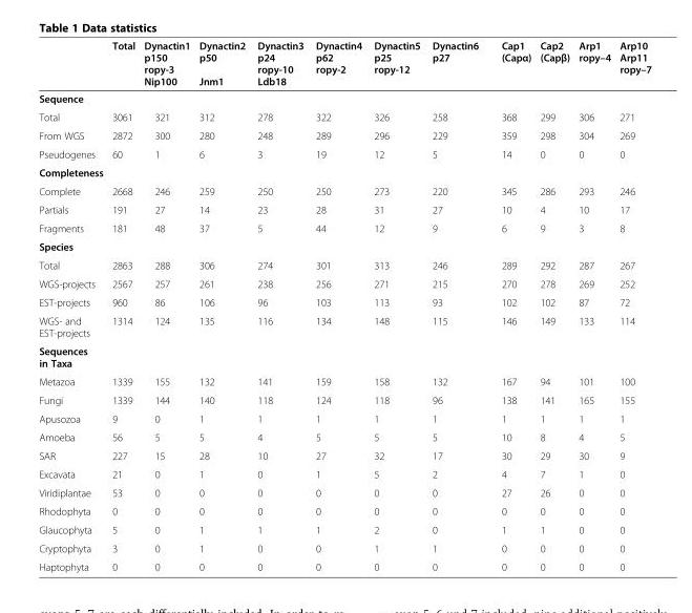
<table><thead><tr><td></td><td>Total</td><td>Dynactin1 p150 ropy-3 Nip100</td><td>Dynactin2 p50 Jnm1</td><td>Dynactin3 p24 ropy-10 Ldb18</td><td>Dynactin4 p62 ropy-2</td><td>Dynactin5 p25 ropy-12</td><td>Dynactin6 p27</td><td>Cap1 (Capα)</td><td>Cap2 (Capβ)</td><td>Arp1 ropy–4</td><td>Arp10 Arp11 ropy–7</td></tr></thead><tbody><tr><td colspan="12">Sequence</td></tr><tr><td>Total</td><td>3061</td><td>321</td><td>312</td><td>278</td><td>322</td><td>326</td><td>258</td><td>368</td><td>299</td><td>306</td><td>271</td></tr><tr><td>From WGS</td><td>2872</td><td>300</td><td>280</td><td>248</td><td>289</td><td>296</td><td>229</td><td>359</td><td>298</td><td>304</td><td>269</td></tr><tr><td>Pseudogenes</td><td>60</td><td>1</td><td>6</td><td>3</td><td>19</td><td>12</td><td>5</td><td>14</td><td>0</td><td>0</td><td>0</td></tr><tr><td colspan="12">Completeness</td></tr><tr><td>Complete</td><td>2668</td><td>246</td><td>259</td><td>250</td><td>250</td><td>273</td><td>220</td><td>345</td><td>286</td><td>293</td><td>246</td></tr><tr><td>Partials</td><td>191</td><td>27</td><td>14</td><td>23</td><td>28</td><td>31</td><td>27</td><td>10</td><td>4</td><td>10</td><td>17</td></tr><tr><td>Fragments</td><td>181</td><td>48</td><td>37</td><td>5</td><td>44</td><td>12</td><td>9</td><td>6</td><td>9</td><td>3</td><td>8</td></tr><tr><td colspan="12">Species</td></tr><tr><td>Total</td><td>2863</td><td>288</td><td>306</td><td>274</td><td>301</td><td>313</td><td>246</td><td>289</td><td>292</td><td>287</td><td>267</td></tr><tr><td>WGS-projects</td><td>2567</td><td>257</td><td>261</td><td>238</td><td>256</td><td>271</td><td>215</td><td>270</td><td>278</td><td>269</td><td>252</td></tr><tr><td>EST-projects</td><td>960</td><td>86</td><td>106</td><td>96</td><td>103</td><td>113</td><td>93</td><td>102</td><td>102</td><td>87</td><td>72</td></tr><tr><td>WGS- and EST-projects</td><td>1314</td><td>124</td><td>135</td><td>116</td><td>134</td><td>148</td><td>115</td><td>146</td><td>149</td><td>133</td><td>114</td></tr><tr><td colspan="12">Sequences in Taxa</td></tr><tr><td>Metazoa</td><td>1339</td><td>155</td><td>132</td><td>141</td><td>159</td><td>158</td><td>132</td><td>167</td><td>94</td><td>101</td><td>100</td></tr><tr><td>Fungi</td><td>1339</td><td>144</td><td>140</td><td>118</td><td>124</td><td>118</td><td>96</td><td>138</td><td>141</td><td>165</td><td>155</td></tr><tr><td>Apusozoa</td><td>9</td><td>0</td><td>1</td><td>1</td><td>1</td><td>1</td><td>1</td><td>1</td><td>1</td><td>1</td><td>1</td></tr><tr><td>Amoeba</td><td>56</td><td>5</td><td>5</td><td>4</td><td>5</td><td>5</td><td>5</td><td>10</td><td>8</td><td>4</td><td>5</td></tr><tr><td>SAR</td><td>227</td><td>15</td><td>28</td><td>10</td><td>27</td><td>32</td><td>17</td><td>30</td><td>29</td><td>30</td><td>9</td></tr><tr><td>Excavata</td><td>21</td><td>0</td><td>1</td><td>0</td><td>1</td><td>5</td><td>2</td><td>4</td><td>7</td><td>1</td><td>0</td></tr><tr><td>Viridiplantae</td><td>53</td><td>0</td><td>0</td><td>0</td><td>0</td><td>0</td><td>0</td><td>27</td><td>26</td><td>0</td><td>0</td></tr><tr><td>Rhodophyta</td><td>0</td><td>0</td><td>0</td><td>0</td><td>0</td><td>0</td><td>0</td><td>0</td><td>0</td><td>0</td><td>0</td></tr><tr><td>Glaucophyta</td><td>5</td><td>0</td><td>1</td><td>1</td><td>1</td><td>2</td><td>0</td><td>1</td><td>1</td><td>0</td><td>0</td></tr><tr><td>Cryptophyta</td><td>3</td><td>0</td><td>1</td><td>0</td><td>0</td><td>1</td><td>1</td><td>0</td><td>0</td><td>0</td><td>0</td></tr><tr><td>Haptophyta</td><td>0</td><td>0</td><td>0</td><td>0</td><td>0</td><td>0</td><td>0</td><td>0</td><td>0</td><td>0</td><td>0</td></tr></tbody></table>